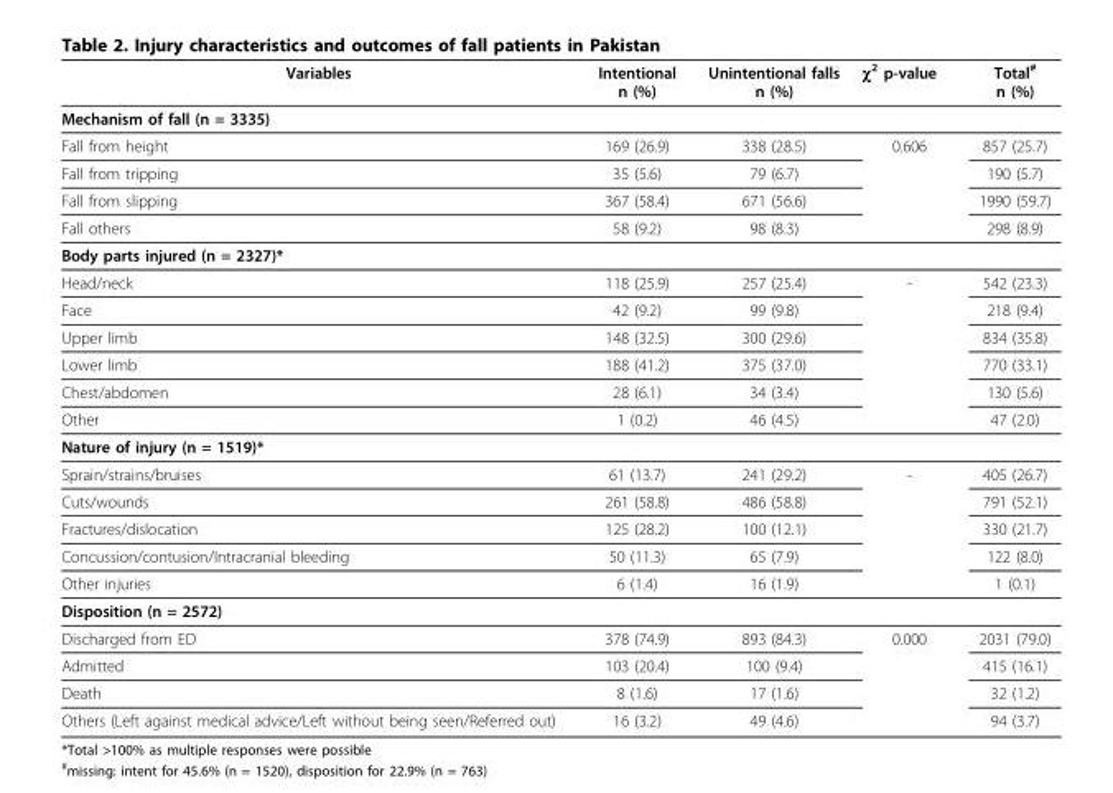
<table><thead><tr><td>Variables</td><td>Intentional n (%)</td><td>Unintentional falls n (%)</td><td>χ<sup>2</sup> p-value</td><td>Total<sup>#</sup> n (%)</td></tr></thead><tbody><tr><td colspan="5">Mechanism of fall (n = 3335)</td></tr><tr><td>Fall from height</td><td>169 (26.9)</td><td>338 (28.5)</td><td>0.606</td><td>857 (25.7)</td></tr><tr><td>Fall from tripping</td><td>35 (5.6)</td><td>79 (6.7)</td><td></td><td>190 (5.7)</td></tr><tr><td>Fall from slipping</td><td>367 (58.4)</td><td>671 (56.6)</td><td></td><td>1990 (59.7)</td></tr><tr><td>Fall others</td><td>58 (9.2)</td><td>98 (8.3)</td><td></td><td>298 (8.9)</td></tr><tr><td colspan="5">Body parts injured (n = 2327)*</td></tr><tr><td>Head/neck</td><td>118 (25.9)</td><td>257 (25.4)</td><td>-</td><td>542 (23.3)</td></tr><tr><td>Face</td><td>42 (9.2)</td><td>99 (9.8)</td><td></td><td>218 (9.4)</td></tr><tr><td>Upper limb</td><td>148 (32.5)</td><td>300 (29.6)</td><td></td><td>834 (35.8)</td></tr><tr><td>Lower limb</td><td>188 (41.2)</td><td>375 (37.0)</td><td></td><td>770 (33.1)</td></tr><tr><td>Chest/abdomen</td><td>28 (6.1)</td><td>34 (3.4)</td><td></td><td>130 (5.6)</td></tr><tr><td>Other</td><td>1 (0.2)</td><td>46 (4.5)</td><td></td><td>47 (2.0)</td></tr><tr><td colspan="5">Nature of injury (n = 1519)*</td></tr><tr><td>Sprain/strains/bruises</td><td>61 (13.7)</td><td>241 (29.2)</td><td>-</td><td>405 (26.7)</td></tr><tr><td>Cuts/wounds</td><td>261 (58.8)</td><td>486 (58.8)</td><td></td><td>791 (52.1)</td></tr><tr><td>Fractures/dislocation</td><td>125 (28.2)</td><td>100 (12.1)</td><td></td><td>330 (21.7)</td></tr><tr><td>Concussion/contusion/Intracranial bleeding</td><td>50 (11.3)</td><td>65 (7.9)</td><td></td><td>122 (8.0)</td></tr><tr><td>Other injuries</td><td>6 (1.4)</td><td>16 (1.9)</td><td></td><td>1 (0.1)</td></tr><tr><td colspan="5">Disposition (n = 2572)</td></tr><tr><td>Discharged from ED</td><td>378 (74.9)</td><td>893 (84.3)</td><td>0.000</td><td>2031 (79.0)</td></tr><tr><td>Admitted</td><td>103 (20.4)</td><td>100 (9.4)</td><td></td><td>415 (16.1)</td></tr><tr><td>Death</td><td>8 (1.6)</td><td>17 (1.6)</td><td></td><td>32 (1.2)</td></tr><tr><td>Others (Left against medical advice/Left without being seen/Referred out)</td><td>16 (3.2)</td><td>49 (4.6)</td><td></td><td>94 (3.7)</td></tr></tbody></table>